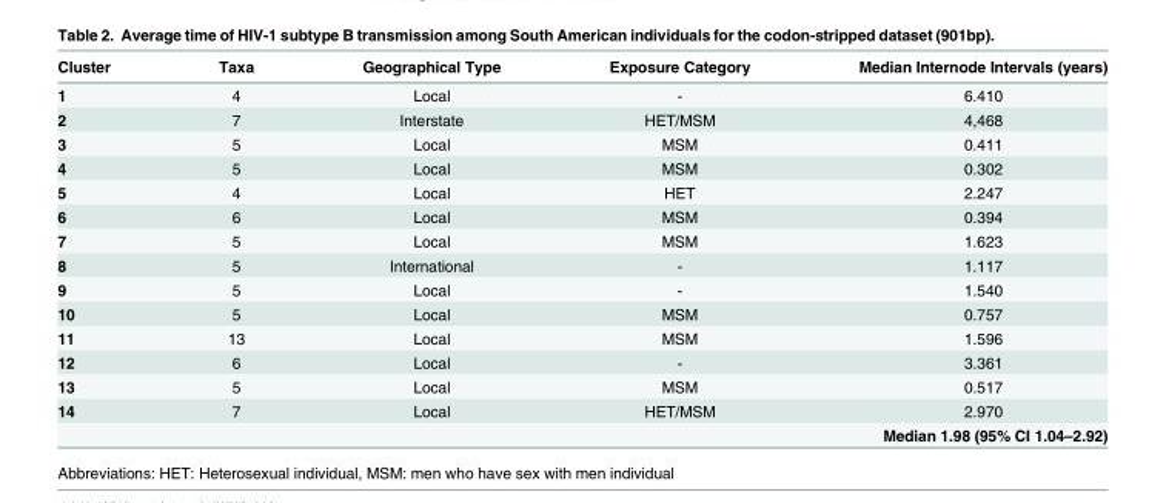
<table><thead><tr><td>Cluster</td><td>Taxa</td><td>Geographical Type</td><td>Exposure Category</td><td>Median Internode Intervals (years)</td></tr></thead><tbody><tr><td>1</td><td>4</td><td>Local</td><td>-</td><td>6.410</td></tr><tr><td>2</td><td>7</td><td>Interstate</td><td>HET/MSM</td><td>4,468</td></tr><tr><td>3</td><td>5</td><td>Local</td><td>MSM</td><td>0.411</td></tr><tr><td>4</td><td>5</td><td>Local</td><td>MSM</td><td>0.302</td></tr><tr><td>5</td><td>4</td><td>Local</td><td>HET</td><td>2.247</td></tr><tr><td>6</td><td>6</td><td>Local</td><td>MSM</td><td>0.394</td></tr><tr><td>7</td><td>5</td><td>Local</td><td>MSM</td><td>1.623</td></tr><tr><td>8</td><td>5</td><td>International</td><td>-</td><td>1.117</td></tr><tr><td>9</td><td>5</td><td>Local</td><td>-</td><td>1.540</td></tr><tr><td>10</td><td>5</td><td>Local</td><td>MSM</td><td>0.757</td></tr><tr><td>11</td><td>13</td><td>Local</td><td>MSM</td><td>1.596</td></tr><tr><td>12</td><td>6</td><td>Local</td><td>-</td><td>3.361</td></tr><tr><td>13</td><td>5</td><td>Local</td><td>MSM</td><td>0.517</td></tr><tr><td rowspan="2">14</td><td>7</td><td>Local</td><td>HET/MSM</td><td>2.970</td></tr><tr><td colspan="4">Median 1.98 (95% CI 1.04–2.92)</td></tr></tbody></table>